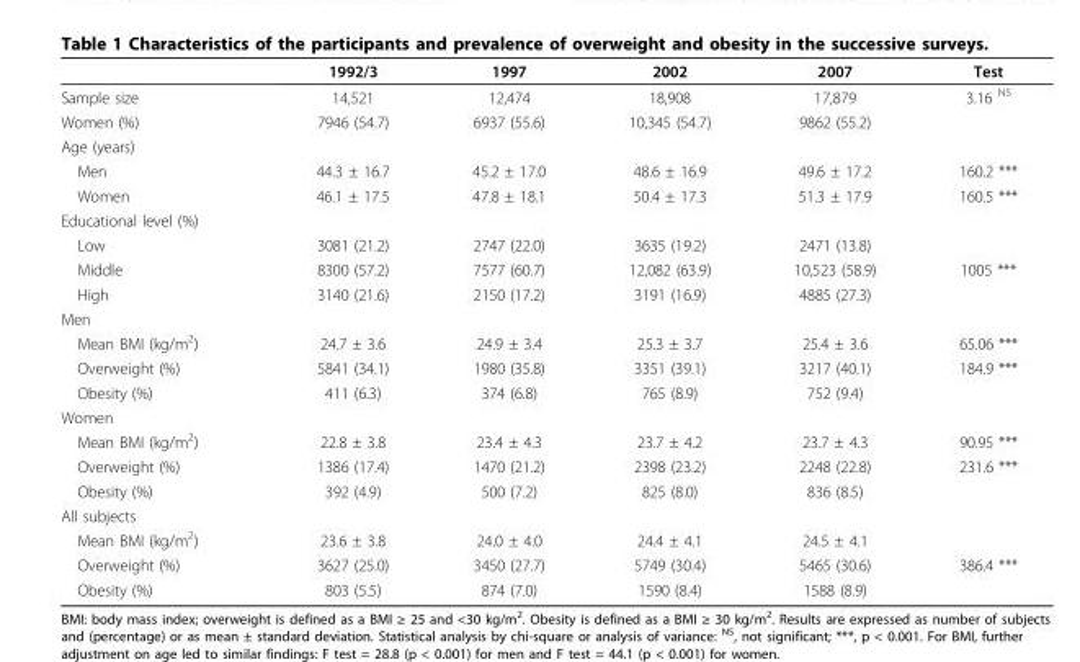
<table><thead><tr><td></td><td>1992/3</td><td>1997</td><td>2002</td><td>2007</td><td>Test</td></tr></thead><tbody><tr><td>Sample size</td><td>14,521</td><td>12,474</td><td>18,908</td><td>17,879</td><td>3.16 <sup>NS</sup></td></tr><tr><td>Women (%)</td><td>7946 (54.7)</td><td>6937 (55.6)</td><td>10,345 (54.7)</td><td>9862 (55.2)</td><td></td></tr><tr><td colspan="6">Age (years)</td></tr><tr><td>Men</td><td>44.3 ± 16.7</td><td>45.2 ± 17.0</td><td>48.6 ± 16.9</td><td>49.6 ± 17.2</td><td>160.2 ***</td></tr><tr><td>Women</td><td>46.1 ± 17.5</td><td>47.8 ± 18.1</td><td>50.4 ± 17.3</td><td>51.3 ± 17.9</td><td>160.5 ***</td></tr><tr><td colspan="6">Educational level (%)</td></tr><tr><td>Low</td><td>3081 (21.2)</td><td>2747 (22.0)</td><td>3635 (19.2)</td><td>2471 (13.8)</td><td></td></tr><tr><td>Middle</td><td>8300 (57.2)</td><td>7577 (60.7)</td><td>12,082 (63.9)</td><td>10,523 (58.9)</td><td>1005 ***</td></tr><tr><td>High</td><td>3140 (21.6)</td><td>2150 (17.2)</td><td>3191 (16.9)</td><td>4885 (27.3)</td><td></td></tr><tr><td colspan="6">Men</td></tr><tr><td>Mean BMI (kg/m<sup>2</sup>)</td><td>24.7 ± 3.6</td><td>24.9 ± 3.4</td><td>25.3 ± 3.7</td><td>25.4 ± 3.6</td><td>65.06 ***</td></tr><tr><td>Overweight (%)</td><td>5841 (34.1)</td><td>1980 (35.8)</td><td>3351 (39.1)</td><td>3217 (40.1)</td><td>184.9 ***</td></tr><tr><td>Obesity (%)</td><td>411 (6.3)</td><td>374 (6.8)</td><td>765 (8.9)</td><td>752 (9.4)</td><td></td></tr><tr><td colspan="6">Women</td></tr><tr><td>Mean BMI (kg/m<sup>2</sup>)</td><td>22.8 ± 3.8</td><td>23.4 ± 4.3</td><td>23.7 ± 4.2</td><td>23.7 ± 4.3</td><td>90.95 ***</td></tr><tr><td>Overweight (%)</td><td>1386 (17.4)</td><td>1470 (21.2)</td><td>2398 (23.2)</td><td>2248 (22.8)</td><td>231.6 ***</td></tr><tr><td>Obesity (%)</td><td>392 (4.9)</td><td>500 (7.2)</td><td>825 (8.0)</td><td>836 (8.5)</td><td></td></tr><tr><td colspan="6">All subjects</td></tr><tr><td>Mean BMI (kg/m<sup>2</sup>)</td><td>23.6 ± 3.8</td><td>24.0 ± 4.0</td><td>24.4 ± 4.1</td><td>24.5 ± 4.1</td><td></td></tr><tr><td>Overweight (%)</td><td>3627 (25.0)</td><td>3450 (27.7)</td><td>5749 (30.4)</td><td>5465 (30.6)</td><td>386.4 ***</td></tr><tr><td>Obesity (%)</td><td>803 (5.5)</td><td>874 (7.0)</td><td>1590 (8.4)</td><td>1588 (8.9)</td><td></td></tr></tbody></table>